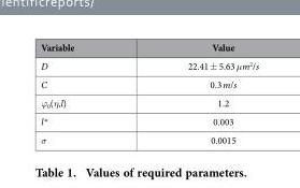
<table><thead><tr><td>Variable</td><td>Value</td></tr></thead><tbody><tr><td>D</td><td>22.41 ± 5.63 μm2/s</td></tr><tr><td>C</td><td>0.3 m/s</td></tr><tr><td>ϕ0(η,l)</td><td>1.2</td></tr><tr><td>l*</td><td>0.003</td></tr><tr><td>σ</td><td>0.0015</td></tr></tbody></table>